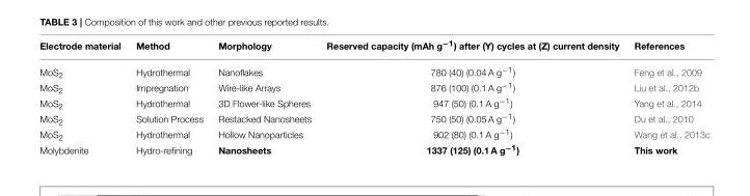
<table><thead><tr><td>Electrode material</td><td>Method</td><td>Morphology</td><td>Reserved capacity (mAh g<sup>−1</sup>) after (Y) cycles at (Z) current density</td><td>References</td></tr></thead><tbody><tr><td>MoS<sub>2</sub></td><td>Hydrothermal</td><td>Nanoflakes</td><td>780 (40) (0.04 A g<sup>−1</sup>)</td><td>Feng et al., 2009</td></tr><tr><td>MoS<sub>2</sub></td><td>Impregnation</td><td>Wire-like Arrays</td><td>876 (100) (0.1 A g<sup>−1</sup>)</td><td>Liu et al., 2012b</td></tr><tr><td>MoS<sub>2</sub></td><td>Hydrothermal</td><td>3D Flower-like Spheres</td><td>947 (50) (0.1 A g<sup>−1</sup>)</td><td>Yang et al., 2014</td></tr><tr><td>MoS<sub>2</sub></td><td>Solution Process</td><td>Restacked Nanosheets</td><td>750 (50) (0.05 A g<sup>−1</sup>)</td><td>Du et al., 2010</td></tr><tr><td>MoS<sub>2</sub></td><td>Hydrothermal</td><td>Hollow Nanoparticles</td><td>902 (80) (0.1 A g<sup>−1</sup>)</td><td>Wang et al., 2013c</td></tr><tr><td>Molybdenite</td><td>Hydro-refining</td><td>Nanosheets</td><td>1337 (125) (0.1 A g<sup>−1</sup>)</td><td>This work</td></tr></tbody></table>